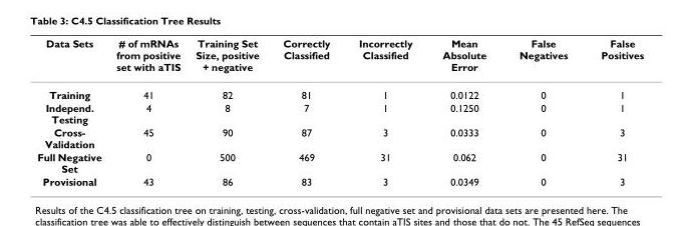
<table><thead><tr><td>Data Sets</td><td># of mRNAs from positive set with aTIS</td><td>Training Set Size, positive + negative</td><td>Correctly Classified</td><td>Incorrectly Classified</td><td>Mean Absolute Error</td><td>False Negatives</td><td>False Positives</td></tr></thead><tbody><tr><td>Training</td><td>41</td><td>82</td><td>81</td><td>1</td><td>0.0122</td><td>0</td><td>1</td></tr><tr><td>Independ. Testing</td><td>4</td><td>8</td><td>7</td><td>1</td><td>0.1250</td><td>0</td><td>1</td></tr><tr><td>Cross- Validation</td><td>45</td><td>90</td><td>87</td><td>3</td><td>0.0333</td><td>0</td><td>3</td></tr><tr><td>Full Negative Set</td><td>0</td><td>500</td><td>469</td><td>31</td><td>0.062</td><td>0</td><td>31</td></tr><tr><td>Provisional</td><td>43</td><td>86</td><td>83</td><td>3</td><td>0.0349</td><td>0</td><td>3</td></tr></tbody></table>